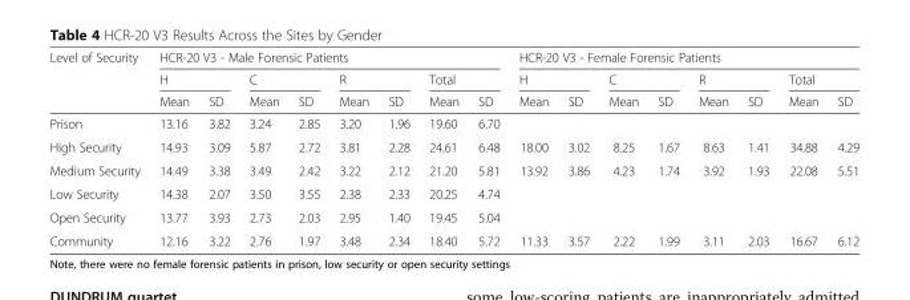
<table><thead><tr><td rowspan="3">Level of Security</td><td colspan="8">HCR-20 V3 - Male Forensic Patients</td><td colspan="8">HCR-20 V3 - Female Forensic Patients</td></tr><tr><td colspan="2">H</td><td colspan="2">C</td><td colspan="2">R</td><td colspan="2">Total</td><td colspan="2">H</td><td colspan="2">C</td><td colspan="2">R</td><td colspan="2">Total</td></tr><tr><td>Mean</td><td>SD</td><td>Mean</td><td>SD</td><td>Mean</td><td>SD</td><td>Mean</td><td>SD</td><td>Mean</td><td>SD</td><td>Mean</td><td>SD</td><td>Mean</td><td>SD</td><td>Mean</td><td>SD</td></tr></thead><tbody><tr><td>Prison</td><td>13.16</td><td>3.82</td><td>3.24</td><td>2.85</td><td>3.20</td><td>1.96</td><td>19.60</td><td>6.70</td><td></td><td></td><td></td><td></td><td></td><td></td><td></td><td></td></tr><tr><td>High Security</td><td>14.93</td><td>3.09</td><td>5.87</td><td>2.72</td><td>3.81</td><td>2.28</td><td>24.61</td><td>6.48</td><td>18.00</td><td>3.02</td><td>8.25</td><td>1.67</td><td>8.63</td><td>1.41</td><td>34.88</td><td>4.29</td></tr><tr><td>Medium Security</td><td>14.49</td><td>3.38</td><td>3.49</td><td>2.42</td><td>3.22</td><td>2.12</td><td>21.20</td><td>5.81</td><td>13.92</td><td>3.86</td><td>4.23</td><td>1.74</td><td>3.92</td><td>1.93</td><td>22.08</td><td>5.51</td></tr><tr><td>Low Security</td><td>14.38</td><td>2.07</td><td>3.50</td><td>3.55</td><td>2.38</td><td>2.33</td><td>20.25</td><td>4.74</td><td></td><td></td><td></td><td></td><td></td><td></td><td></td><td></td></tr><tr><td>Open Security</td><td>13.77</td><td>3.93</td><td>2.73</td><td>2.03</td><td>2.95</td><td>1.40</td><td>19.45</td><td>5.04</td><td></td><td></td><td></td><td></td><td></td><td></td><td></td><td></td></tr><tr><td>Community</td><td>12.16</td><td>3.22</td><td>2.76</td><td>1.97</td><td>3.48</td><td>2.34</td><td>18.40</td><td>5.72</td><td>11.33</td><td>3.57</td><td>2.22</td><td>1.99</td><td>3.11</td><td>2.03</td><td>16.67</td><td>6.12</td></tr></tbody></table>